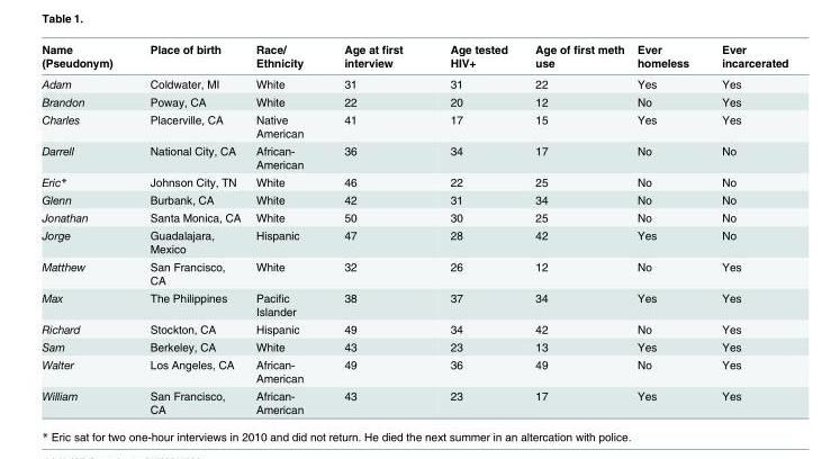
<table><thead><tr><td>Name (Pseudonym)</td><td>Place of birth</td><td>Race/ Ethnicity</td><td>Age at first interview</td><td>Age tested HIV+</td><td>Age of first meth use</td><td>Ever homeless</td><td>Ever incarcerated</td></tr></thead><tbody><tr><td>Adam</td><td>Coldwater, MI</td><td>White</td><td>31</td><td>31</td><td>22</td><td>Yes</td><td>Yes</td></tr><tr><td>Brandon</td><td>Poway, CA</td><td>White</td><td>22</td><td>20</td><td>12</td><td>No</td><td>Yes</td></tr><tr><td>Charles</td><td>Placerville, CA</td><td>Native American</td><td>41</td><td>17</td><td>15</td><td>Yes</td><td>Yes</td></tr><tr><td>Darrell</td><td>National City, CA</td><td>African- American</td><td>36</td><td>34</td><td>17</td><td>No</td><td>No</td></tr><tr><td>Eric*</td><td>Johnson City, TN</td><td>White</td><td>46</td><td>22</td><td>25</td><td>No</td><td>No</td></tr><tr><td>Glenn</td><td>Burbank, CA</td><td>White</td><td>42</td><td>31</td><td>34</td><td>No</td><td>No</td></tr><tr><td>Jonathan</td><td>Santa Monica, CA</td><td>White</td><td>50</td><td>30</td><td>25</td><td>No</td><td>No</td></tr><tr><td>Jorge</td><td>Guadalajara, Mexico</td><td>Hispanic</td><td>47</td><td>28</td><td>42</td><td>Yes</td><td>No</td></tr><tr><td>Matthew</td><td>San Francisco, CA</td><td>White</td><td>32</td><td>26</td><td>12</td><td>No</td><td>Yes</td></tr><tr><td>Max</td><td>The Philippines</td><td>Pacific Islander</td><td>38</td><td>37</td><td>34</td><td>Yes</td><td>Yes</td></tr><tr><td>Richard</td><td>Stockton, CA</td><td>Hispanic</td><td>49</td><td>34</td><td>42</td><td>No</td><td>Yes</td></tr><tr><td>Sam</td><td>Berkeley, CA</td><td>White</td><td>43</td><td>23</td><td>13</td><td>Yes</td><td>Yes</td></tr><tr><td>Walter</td><td>Los Angeles, CA</td><td>African- American</td><td>49</td><td>36</td><td>49</td><td>No</td><td>Yes</td></tr><tr><td>William</td><td>San Francisco, CA</td><td>African- American</td><td>43</td><td>23</td><td>17</td><td>Yes</td><td>Yes</td></tr></tbody></table>